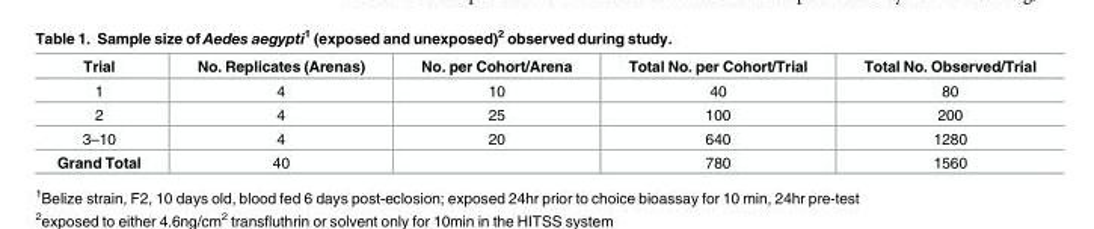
<table><thead><tr><td>Trial</td><td>No. Replicates (Arenas)</td><td>No. per Cohort/Arena</td><td>Total No. per Cohort/Trial</td><td>Total No. Observed/Trial</td></tr></thead><tbody><tr><td>1</td><td>4</td><td>10</td><td>40</td><td>80</td></tr><tr><td>2</td><td>4</td><td>25</td><td>100</td><td>200</td></tr><tr><td>3–10</td><td>4</td><td>20</td><td>640</td><td>1280</td></tr><tr><td>Grand Total</td><td>40</td><td></td><td>780</td><td>1560</td></tr></tbody></table>